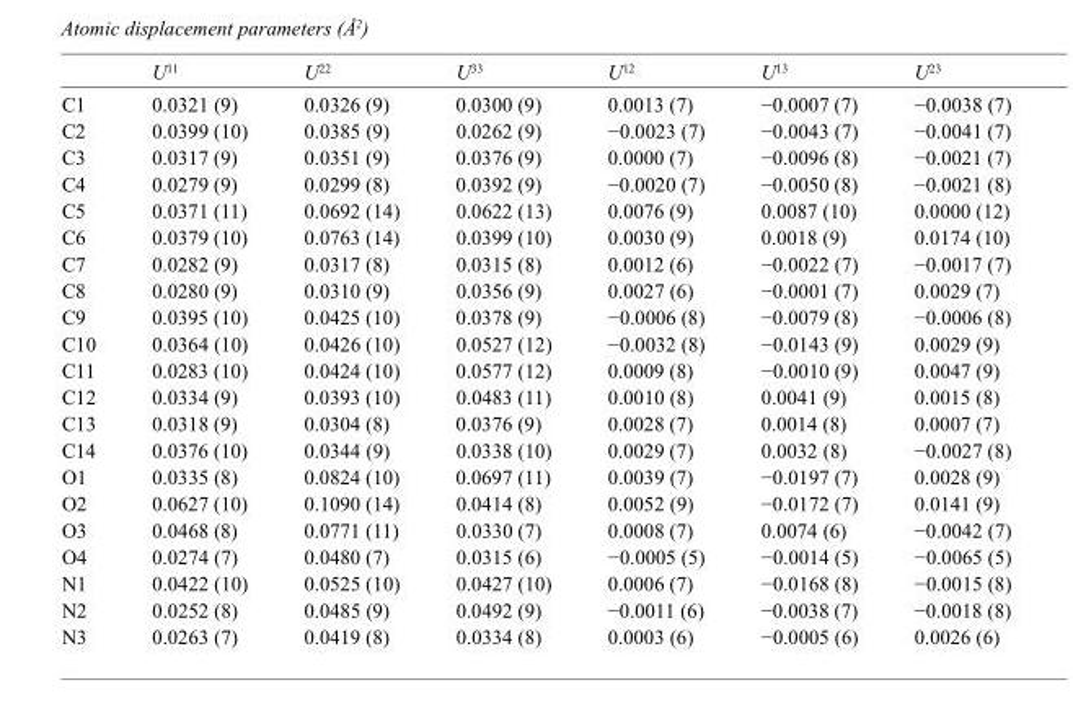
<table><thead><tr><td></td><td>U<sup>11</sup></td><td>U<sup>22</sup></td><td>U<sup>33</sup></td><td>U<sup>12</sup></td><td>U<sup>13</sup></td><td>U<sup>23</sup></td></tr></thead><tbody><tr><td>C1</td><td>0.0321 (9)</td><td>0.0326 (9)</td><td>0.0300 (9)</td><td>0.0013 (7)</td><td>−0.0007 (7)</td><td>−0.0038 (7)</td></tr><tr><td>C2</td><td>0.0399 (10)</td><td>0.0385 (9)</td><td>0.0262 (9)</td><td>−0.0023 (7)</td><td>−0.0043 (7)</td><td>−0.0041 (7)</td></tr><tr><td>C3</td><td>0.0317 (9)</td><td>0.0351 (9)</td><td>0.0376 (9)</td><td>0.0000 (7)</td><td>−0.0096 (8)</td><td>−0.0021 (7)</td></tr><tr><td>C4</td><td>0.0279 (9)</td><td>0.0299 (8)</td><td>0.0392 (9)</td><td>−0.0020 (7)</td><td>−0.0050 (8)</td><td>−0.0021 (8)</td></tr><tr><td>C5</td><td>0.0371 (11)</td><td>0.0692 (14)</td><td>0.0622 (13)</td><td>0.0076 (9)</td><td>0.0087 (10)</td><td>0.0000 (12)</td></tr><tr><td>C6</td><td>0.0379 (10)</td><td>0.0763 (14)</td><td>0.0399 (10)</td><td>0.0030 (9)</td><td>0.0018 (9)</td><td>0.0174 (10)</td></tr><tr><td>C7</td><td>0.0282 (9)</td><td>0.0317 (8)</td><td>0.0315 (8)</td><td>0.0012 (6)</td><td>−0.0022 (7)</td><td>−0.0017 (7)</td></tr><tr><td>C8</td><td>0.0280 (9)</td><td>0.0310 (9)</td><td>0.0356 (9)</td><td>0.0027 (6)</td><td>−0.0001 (7)</td><td>0.0029 (7)</td></tr><tr><td>C9</td><td>0.0395 (10)</td><td>0.0425 (10)</td><td>0.0378 (9)</td><td>−0.0006 (8)</td><td>−0.0079 (8)</td><td>−0.0006 (8)</td></tr><tr><td>C10</td><td>0.0364 (10)</td><td>0.0426 (10)</td><td>0.0527 (12)</td><td>−0.0032 (8)</td><td>−0.0143 (9)</td><td>0.0029 (9)</td></tr><tr><td>C11</td><td>0.0283 (10)</td><td>0.0424 (10)</td><td>0.0577 (12)</td><td>0.0009 (8)</td><td>−0.0010 (9)</td><td>0.0047 (9)</td></tr><tr><td>C12</td><td>0.0334 (9)</td><td>0.0393 (10)</td><td>0.0483 (11)</td><td>0.0010 (8)</td><td>0.0041 (9)</td><td>0.0015 (8)</td></tr><tr><td>C13</td><td>0.0318 (9)</td><td>0.0304 (8)</td><td>0.0376 (9)</td><td>0.0028 (7)</td><td>0.0014 (8)</td><td>0.0007 (7)</td></tr><tr><td>C14</td><td>0.0376 (10)</td><td>0.0344 (9)</td><td>0.0338 (10)</td><td>0.0029 (7)</td><td>0.0032 (8)</td><td>−0.0027 (8)</td></tr><tr><td>O1</td><td>0.0335 (8)</td><td>0.0824 (10)</td><td>0.0697 (11)</td><td>0.0039 (7)</td><td>−0.0197 (7)</td><td>0.0028 (9)</td></tr><tr><td>O2</td><td>0.0627 (10)</td><td>0.1090 (14)</td><td>0.0414 (8)</td><td>0.0052 (9)</td><td>−0.0172 (7)</td><td>0.0141 (9)</td></tr><tr><td>O3</td><td>0.0468 (8)</td><td>0.0771 (11)</td><td>0.0330 (7)</td><td>0.0008 (7)</td><td>0.0074 (6)</td><td>−0.0042 (7)</td></tr><tr><td>O4</td><td>0.0274 (7)</td><td>0.0480 (7)</td><td>0.0315 (6)</td><td>−0.0005 (5)</td><td>−0.0014 (5)</td><td>−0.0065 (5)</td></tr><tr><td>N1</td><td>0.0422 (10)</td><td>0.0525 (10)</td><td>0.0427 (10)</td><td>0.0006 (7)</td><td>−0.0168 (8)</td><td>−0.0015 (8)</td></tr><tr><td>N2</td><td>0.0252 (8)</td><td>0.0485 (9)</td><td>0.0492 (9)</td><td>−0.0011 (6)</td><td>−0.0038 (7)</td><td>−0.0018 (8)</td></tr><tr><td>N3</td><td>0.0263 (7)</td><td>0.0419 (8)</td><td>0.0334 (8)</td><td>0.0003 (6)</td><td>−0.0005 (6)</td><td>0.0026 (6)</td></tr></tbody></table>